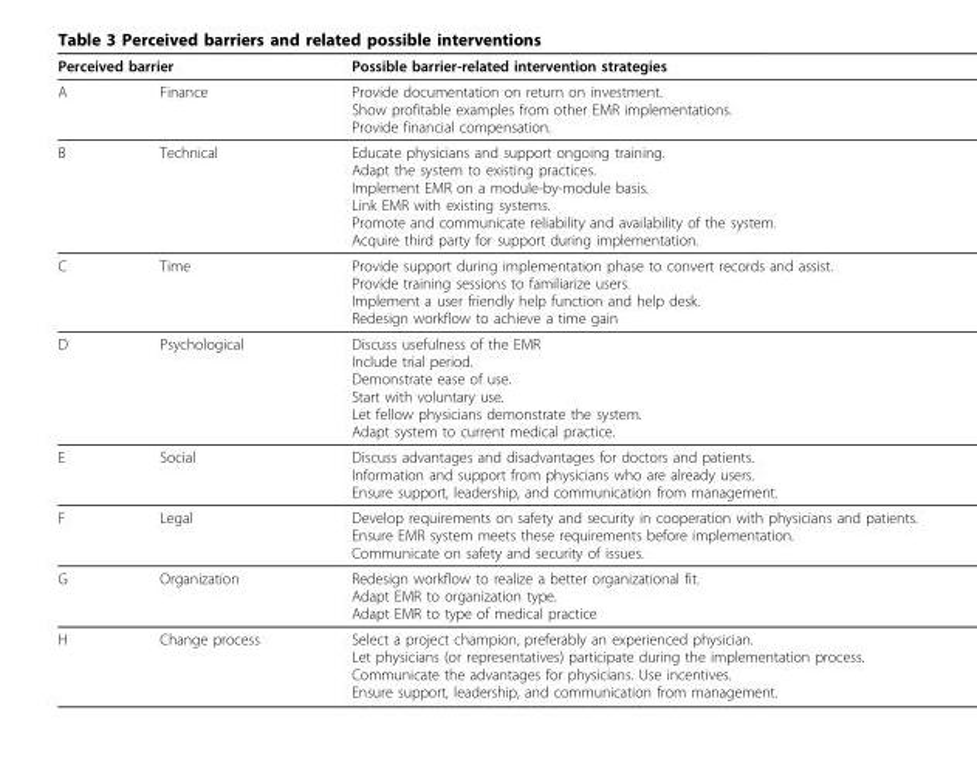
<table><thead><tr><td colspan="2">Perceived barrier</td><td rowspan="2">Possible barrier-related intervention strategies Provide documentation on return on investment. Show profitable examples from other EMR implementations. Provide financial compensation.</td></tr><tr><td>A</td><td>Finance</td></tr></thead><tbody><tr><td>B</td><td>Technical</td><td>Educate physicians and support ongoing training. Adapt the system to existing practices. Implement EMR on a module-by-module basis. Link EMR with existing systems. Promote and communicate reliability and availability of the system. Acquire third party for support during implementation.</td></tr><tr><td>C</td><td>Time</td><td>Provide support during implementation phase to convert records and assist. Provide training sessions to familiarize users. Implement a user friendly help function and help desk. Redesign workflow to achieve a time gain</td></tr><tr><td>D</td><td>Psychological</td><td>Discuss usefulness of the EMR Include trial period. Demonstrate ease of use. Start with voluntary use. Let fellow physicians demonstrate the system. Adapt system to current medical practice.</td></tr><tr><td>E</td><td>Social</td><td>Discuss advantages and disadvantages for doctors and patients. Information and support from physicians who are already users. Ensure support, leadership, and communication from management.</td></tr><tr><td>F</td><td>Legal</td><td>Develop requirements on safety and security in cooperation with physicians and patients. Ensure EMR system meets these requirements before implementation. Communicate on safety and security of issues.</td></tr><tr><td>G</td><td>Organization</td><td>Redesign workflow to realize a better organizational fit. Adapt EMR to organization type. Adapt EMR to type of medical practice</td></tr><tr><td>H</td><td>Change process</td><td>Select a project champion, preferably an experienced physician. Let physicians (or representatives) participate during the implementation process. Communicate the advantages for physicians. Use incentives. Ensure support, leadership, and communication from management.</td></tr></tbody></table>